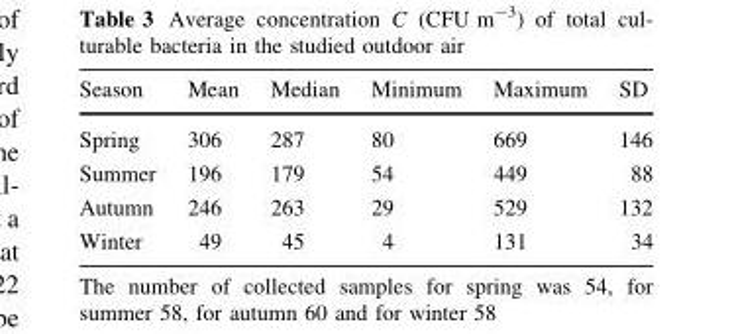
<table><thead><tr><td>Season</td><td>Mean</td><td>Median</td><td>Minimum</td><td>Maximum</td><td>SD</td></tr></thead><tbody><tr><td>Spring</td><td>306</td><td>287</td><td>80</td><td>669</td><td>146</td></tr><tr><td>Summer</td><td>196</td><td>179</td><td>54</td><td>449</td><td>88</td></tr><tr><td>Autumn</td><td>246</td><td>263</td><td>29</td><td>529</td><td>132</td></tr><tr><td>Winter</td><td>49</td><td>45</td><td>4</td><td>131</td><td>34</td></tr></tbody></table>